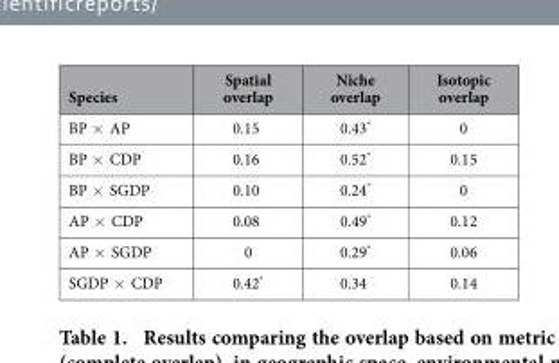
<table><thead><tr><td>Species</td><td>Spatial overlap</td><td>Niche overlap</td><td>Isotopic overlap</td></tr></thead><tbody><tr><td>BP × AP</td><td>0.15</td><td>0.43*</td><td>0</td></tr><tr><td>BP × CDP</td><td>0.16</td><td>0.52*</td><td>0.15</td></tr><tr><td>BP × SGDP</td><td>0.10</td><td>0.24*</td><td>0</td></tr><tr><td>AP × CDP</td><td>0.08</td><td>0.49*</td><td>0.12</td></tr><tr><td>AP × SGDP</td><td>0</td><td>0.29*</td><td>0.06</td></tr><tr><td>SGDP × CDP</td><td>0.42*</td><td>0.34</td><td>0.14</td></tr></tbody></table>